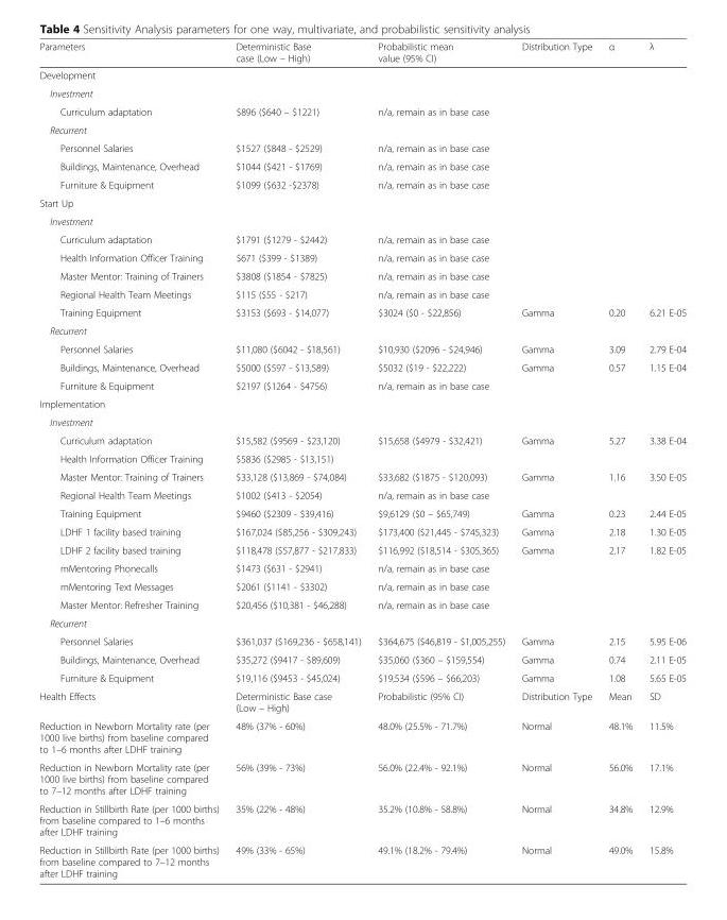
<table><thead><tr><td>Parameters</td><td>Deterministic Base case (Low – High)</td><td>Probabilistic mean value (95% CI)</td><td>Distribution Type</td><td>α</td><td>λ</td></tr></thead><tbody><tr><td colspan="6">Development</td></tr><tr><td colspan="6">Investment</td></tr><tr><td>Curriculum adaptation</td><td>$896 ($640 – $1221)</td><td>n/a, remain as in base case</td><td></td><td></td><td></td></tr><tr><td colspan="6">Recurrent</td></tr><tr><td>Personnel Salaries</td><td>$1527 ($848 - $2529)</td><td>n/a, remain as in base case</td><td></td><td></td><td></td></tr><tr><td>Buildings, Maintenance, Overhead</td><td>$1044 ($421 - $1769)</td><td>n/a, remain as in base case</td><td></td><td></td><td></td></tr><tr><td>Furniture &amp; Equipment</td><td>$1099 ($632 -$2378)</td><td>n/a, remain as in base case</td><td></td><td></td><td></td></tr><tr><td colspan="6">Start Up</td></tr><tr><td colspan="6">Investment</td></tr><tr><td>Curriculum adaptation</td><td>$1791 ($1279 - $2442)</td><td>n/a, remain as in base case</td><td></td><td></td><td></td></tr><tr><td>Health Information Officer Training</td><td>$671 ($399 - $1389)</td><td>n/a, remain as in base case</td><td></td><td></td><td></td></tr><tr><td>Master Mentor: Training of Trainers</td><td>$3808 ($1854 - $7825)</td><td>n/a, remain as in base case</td><td></td><td></td><td></td></tr><tr><td>Regional Health Team Meetings</td><td>$115 ($55 - $217)</td><td>n/a, remain as in base case</td><td></td><td></td><td></td></tr><tr><td>Training Equipment</td><td>$3153 ($693 - $14,077)</td><td>$3024 ($0 - $22,856)</td><td>Gamma</td><td>0.20</td><td>6.21 E-05</td></tr><tr><td colspan="6">Recurrent</td></tr><tr><td>Personnel Salaries</td><td>$11,080 ($6042 - $18,561)</td><td>$10,930 ($2096 - $24,946)</td><td>Gamma</td><td>3.09</td><td>2.79 E-04</td></tr><tr><td>Buildings, Maintenance, Overhead</td><td>$5000 ($597 - $13,589)</td><td>$5032 ($19 - $22,222)</td><td>Gamma</td><td>0.57</td><td>1.15 E-04</td></tr><tr><td>Furniture &amp; Equipment</td><td>$2197 ($1264 - $4756)</td><td>n/a, remain as in base case</td><td></td><td></td><td></td></tr><tr><td colspan="6">Implementation</td></tr><tr><td colspan="6">Investment</td></tr><tr><td>Curriculum adaptation</td><td>$15,582 ($9569 - $23,120)</td><td>$15,658 ($4979 - $32,421)</td><td>Gamma</td><td>5.27</td><td>3.38 E-04</td></tr><tr><td>Health Information Officer Training</td><td>$5836 ($2985 - $13,151)</td><td></td><td></td><td></td><td></td></tr><tr><td>Master Mentor: Training of Trainers</td><td>$33,128 ($13,869 - $74,084)</td><td>$33,682 ($1875 - $120,093)</td><td>Gamma</td><td>1.16</td><td>3.50 E-05</td></tr><tr><td>Regional Health Team Meetings</td><td>$1002 ($413 - $2054)</td><td>n/a, remain as in base case</td><td></td><td></td><td></td></tr><tr><td>Training Equipment</td><td>$9460 ($2309 - $39,416)</td><td>$9,6129 ($0 – $65,749)</td><td>Gamma</td><td>0.23</td><td>2.44 E-05</td></tr><tr><td>LDHF 1 facility based training</td><td>$167,024 ($85,256 - $309,243)</td><td>$173,400 ($21,445 - $745,323)</td><td>Gamma</td><td>2.18</td><td>1.30 E-05</td></tr><tr><td>LDHF 2 facility based training</td><td>$118,478 ($57,877 - $217,833)</td><td>$116,992 ($18,514 - $305,365)</td><td>Gamma</td><td>2.17</td><td>1.82 E-05</td></tr><tr><td>mMentoring Phonecalls</td><td>$1473 ($631 - $2941)</td><td>n/a, remain as in base case</td><td></td><td></td><td></td></tr><tr><td>mMentoring Text Messages</td><td>$2061 ($1141 - $3302)</td><td>n/a, remain as in base case</td><td></td><td></td><td></td></tr><tr><td>Master Mentor: Refresher Training</td><td>$20,456 ($10,381 - $46,288)</td><td>n/a, remain as in base case</td><td></td><td></td><td></td></tr><tr><td colspan="6">Recurrent</td></tr><tr><td>Personnel Salaries</td><td>$361,037 ($169,236 - $658,141)</td><td>$364,675 ($46,819 - $1,005,255)</td><td>Gamma</td><td>2.15</td><td>5.95 E-06</td></tr><tr><td>Buildings, Maintenance, Overhead</td><td>$35,272 ($9417 - $89,609)</td><td>$35,060 ($360 – $159,554)</td><td>Gamma</td><td>0.74</td><td>2.11 E-05</td></tr><tr><td>Furniture &amp; Equipment</td><td>$19,116 ($9453 - $45,024)</td><td>$19,534 ($596 – $66,203)</td><td>Gamma</td><td>1.08</td><td>5.65 E-05</td></tr><tr><td>Health Effects</td><td>Deterministic Base case (Low – High)</td><td>Probabilistic (95% CI)</td><td>Distribution Type</td><td>Mean</td><td>SD</td></tr><tr><td>Reduction in Newborn Mortality rate (per 1000 live births) from baseline compared to 1–6 months after LDHF training</td><td>48% (37% - 60%)</td><td>48.0% (25.5% - 71.7%)</td><td>Normal</td><td>48.1%</td><td>11.5%</td></tr><tr><td>Reduction in Newborn Mortality rate (per 1000 live births) from baseline compared to 7–12 months after LDHF training</td><td>56% (39% - 73%)</td><td>56.0% (22.4% - 92.1%)</td><td>Normal</td><td>56.0%</td><td>17.1%</td></tr><tr><td>Reduction in Stillbirth Rate (per 1000 births) from baseline compared to 1–6 months after LDHF training</td><td>35% (22% - 48%)</td><td>35.2% (10.8% - 58.8%)</td><td>Normal</td><td>34.8%</td><td>12.9%</td></tr><tr><td>Reduction in Stillbirth Rate (per 1000 births) from baseline compared to 7–12 months after LDHF training</td><td>49% (33% - 65%)</td><td>49.1% (18.2% - 79.4%)</td><td>Normal</td><td>49.0%</td><td>15.8%</td></tr></tbody></table>